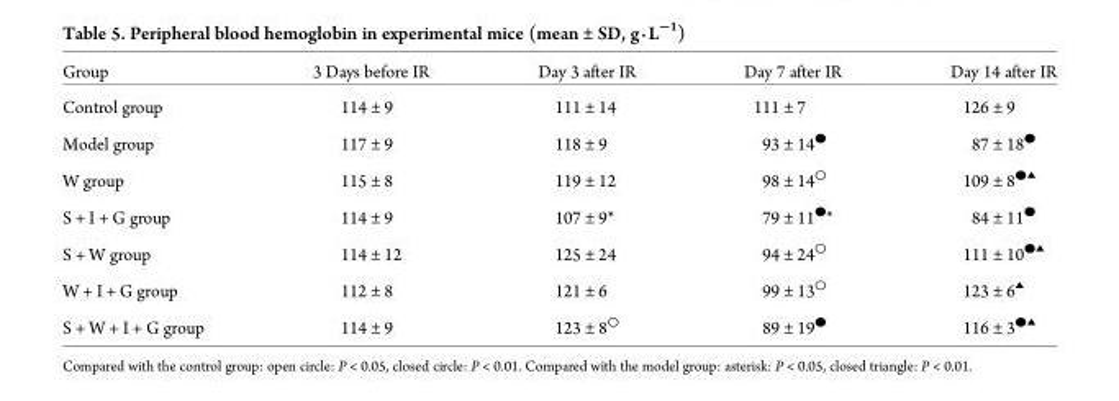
<table><thead><tr><td>Group</td><td>3 Days before IR</td><td>Day 3 after IR</td><td>Day 7 after IR</td><td>Day 14 after IR</td></tr></thead><tbody><tr><td>Control group</td><td>114 ± 9</td><td>111 ± 14</td><td>111 ± 7</td><td>126 ± 9</td></tr><tr><td>Model group</td><td>117 ± 9</td><td>118 ± 9</td><td>93 ± 14<sup>●</sup></td><td>87 ± 18<sup>●</sup></td></tr><tr><td>W group</td><td>115 ± 8</td><td>119 ± 12</td><td>98 ± 14<sup>○</sup></td><td>109 ± 8●▴</td></tr><tr><td>S + I + G group</td><td>114 ± 9</td><td>107 ± 9*</td><td>79 ± 11<sup>●</sup>*</td><td>84 ± 11<sup>●</sup></td></tr><tr><td>S + W group</td><td>114 ± 12</td><td>125 ± 24</td><td>94 ± 24<sup>○</sup></td><td>111 ± 10●▴</td></tr><tr><td>W + I + G group</td><td>112 ± 8</td><td>121 ± 6</td><td>99 ± 13<sup>○</sup></td><td>123 ± 6▴</td></tr><tr><td>S + W + I + G group</td><td>114 ± 9</td><td>123 ± 8<sup>○</sup></td><td>89 ± 19<sup>●</sup></td><td>116 ± 3●▴</td></tr></tbody></table>